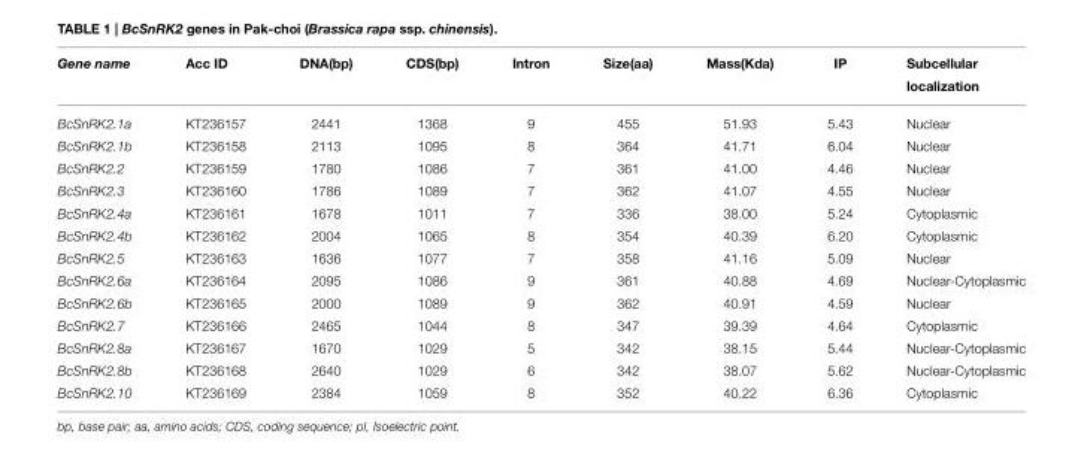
<table><thead><tr><td>Gene name</td><td>Acc ID</td><td>DNA(bp)</td><td>CDS(bp)</td><td>Intron</td><td>Size(aa)</td><td>Mass(Kda)</td><td>IP</td><td>Subcellular localization</td></tr></thead><tbody><tr><td>BcSnRK2.1a</td><td>KT236157</td><td>2441</td><td>1368</td><td>9</td><td>455</td><td>51.93</td><td>5.43</td><td>Nuclear</td></tr><tr><td>BcSnRK2.1b</td><td>KT236158</td><td>2113</td><td>1095</td><td>8</td><td>364</td><td>41.71</td><td>6.04</td><td>Nuclear</td></tr><tr><td>BcSnRK2.2</td><td>KT236159</td><td>1780</td><td>1086</td><td>7</td><td>361</td><td>41.00</td><td>4.46</td><td>Nuclear</td></tr><tr><td>BcSnRK2.3</td><td>KT236160</td><td>1786</td><td>1089</td><td>7</td><td>362</td><td>41.07</td><td>4.55</td><td>Nuclear</td></tr><tr><td>BcSnRK2.4a</td><td>KT236161</td><td>1678</td><td>1011</td><td>7</td><td>336</td><td>38.00</td><td>5.24</td><td>Cytoplasmic</td></tr><tr><td>BcSnRK2.4b</td><td>KT236162</td><td>2004</td><td>1065</td><td>8</td><td>354</td><td>40.39</td><td>6.20</td><td>Cytoplasmic</td></tr><tr><td>BcSnRK2.5</td><td>KT236163</td><td>1636</td><td>1077</td><td>7</td><td>358</td><td>41.16</td><td>5.09</td><td>Nuclear</td></tr><tr><td>BcSnRK2.6a</td><td>KT236164</td><td>2095</td><td>1086</td><td>9</td><td>361</td><td>40.88</td><td>4.69</td><td>Nuclear-Cytoplasmic</td></tr><tr><td>BcSnRK2.6b</td><td>KT236165</td><td>2000</td><td>1089</td><td>9</td><td>362</td><td>40.91</td><td>4.59</td><td>Nuclear</td></tr><tr><td>BcSnRK2.7</td><td>KT236166</td><td>2465</td><td>1044</td><td>8</td><td>347</td><td>39.39</td><td>4.64</td><td>Cytoplasmic</td></tr><tr><td>BcSnRK2.8a</td><td>KT236167</td><td>1670</td><td>1029</td><td>5</td><td>342</td><td>38.15</td><td>5.44</td><td>Nuclear-Cytoplasmic</td></tr><tr><td>BcSnRK2.8b</td><td>KT236168</td><td>2640</td><td>1029</td><td>6</td><td>342</td><td>38.07</td><td>5.62</td><td>Nuclear-Cytoplasmic</td></tr><tr><td>BcSnRK2.10</td><td>KT236169</td><td>2384</td><td>1059</td><td>8</td><td>352</td><td>40.22</td><td>6.36</td><td>Cytoplasmic</td></tr></tbody></table>